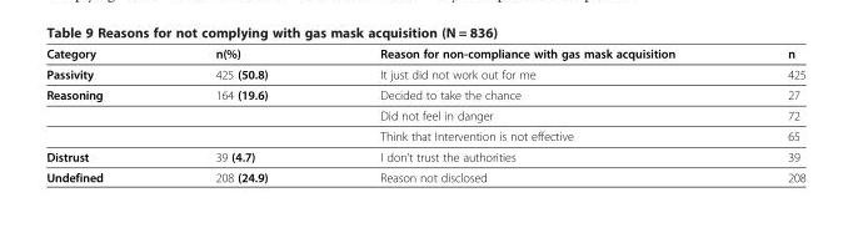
<table><thead><tr><td>Category</td><td>n(%)</td><td>Reason for non-compliance with gas mask acquisition</td><td>n</td></tr></thead><tbody><tr><td>Passivity</td><td>425 (50.8)</td><td>It just did not work out for me</td><td>425</td></tr><tr><td rowspan="3">Reasoning</td><td>164 (19.6)</td><td>Decided to take the chance</td><td>27</td></tr><tr><td></td><td>Did not feel in danger</td><td>72</td></tr><tr><td></td><td>Think that Intervention is not effective</td><td>65</td></tr><tr><td>Distrust</td><td>39 (4.7)</td><td>I don’t trust the authorities</td><td>39</td></tr><tr><td>Undefined</td><td>208 (24.9)</td><td>Reason not disclosed</td><td>208</td></tr></tbody></table>